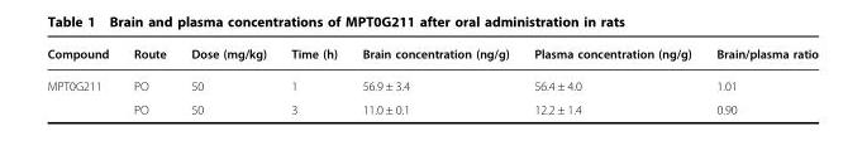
<table><thead><tr><td>Compound</td><td>Route</td><td>Dose (mg/kg)</td><td>Time (h)</td><td>Brain concentration (ng/g)</td><td>Plasma concentration (ng/g)</td><td>Brain/plasma ratio</td></tr></thead><tbody><tr><td rowspan="2">MPT0G211</td><td>PO</td><td>50</td><td>1</td><td>56.9 ± 3.4</td><td>56.4 ± 4.0</td><td>1.01</td></tr><tr><td>PO</td><td>50</td><td>3</td><td>11.0 ± 0.1</td><td>12.2 ± 1.4</td><td>0.90</td></tr></tbody></table>